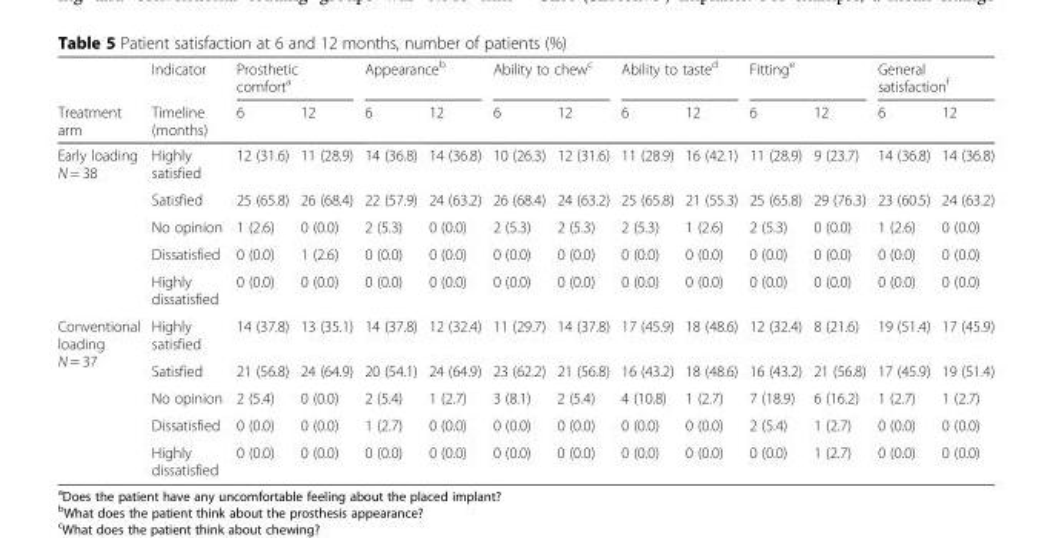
<table><thead><tr><td rowspan="2">Treatment arm</td><td rowspan="2">Indicator Timeline (months)</td><td colspan="2">Prosthetic comfort<sup>a</sup></td><td colspan="2">Appearance<sup>b</sup></td><td colspan="2">Ability to chew<sup>c</sup></td><td colspan="2">Ability to taste<sup>d</sup></td><td colspan="2">Fitting<sup>e</sup></td><td colspan="2">General satisfaction<sup>f</sup></td></tr><tr><td>6</td><td>12</td><td>6</td><td>12</td><td>6</td><td>12</td><td>6</td><td>12</td><td>6</td><td>12</td><td>6</td><td>12</td></tr></thead><tbody><tr><td rowspan="5">Early loading N = 38</td><td>Highly satisfied</td><td>12 (31.6)</td><td>11 (28.9)</td><td>14 (36.8)</td><td>14 (36.8)</td><td>10 (26.3)</td><td>12 (31.6)</td><td>11 (28.9)</td><td>16 (42.1)</td><td>11 (28.9)</td><td>9 (23.7)</td><td>14 (36.8)</td><td>14 (36.8)</td></tr><tr><td>Satisfied</td><td>25 (65.8)</td><td>26 (68.4)</td><td>22 (57.9)</td><td>24 (63.2)</td><td>26 (68.4)</td><td>24 (63.2)</td><td>25 (65.8)</td><td>21 (55.3)</td><td>25 (65.8)</td><td>29 (76.3)</td><td>23 (60.5)</td><td>24 (63.2)</td></tr><tr><td>No opinion</td><td>1 (2.6)</td><td>0 (0.0)</td><td>2 (5.3)</td><td>0 (0.0)</td><td>2 (5.3)</td><td>2 (5.3)</td><td>2 (5.3)</td><td>1 (2.6)</td><td>2 (5.3)</td><td>0 (0.0)</td><td>1 (2.6)</td><td>0 (0.0)</td></tr><tr><td>Dissatisfied</td><td>0 (0.0)</td><td>1 (2.6)</td><td>0 (0.0)</td><td>0 (0.0)</td><td>0 (0.0)</td><td>0 (0.0)</td><td>0 (0.0)</td><td>0 (0.0)</td><td>0 (0.0)</td><td>0 (0.0)</td><td>0 (0.0)</td><td>0 (0.0)</td></tr><tr><td>Highly dissatisfied</td><td>0 (0.0)</td><td>0 (0.0)</td><td>0 (0.0)</td><td>0 (0.0)</td><td>0 (0.0)</td><td>0 (0.0)</td><td>0 (0.0)</td><td>0 (0.0)</td><td>0 (0.0)</td><td>0 (0.0)</td><td>0 (0.0)</td><td>0 (0.0)</td></tr><tr><td rowspan="5">Conventional loading N = 37</td><td>Highly satisfied</td><td>14 (37.8)</td><td>13 (35.1)</td><td>14 (37.8)</td><td>12 (32.4)</td><td>11 (29.7)</td><td>14 (37.8)</td><td>17 (45.9)</td><td>18 (48.6)</td><td>12 (32.4)</td><td>8 (21.6)</td><td>19 (51.4)</td><td>17 (45.9)</td></tr><tr><td>Satisfied</td><td>21 (56.8)</td><td>24 (64.9)</td><td>20 (54.1)</td><td>24 (64.9)</td><td>23 (62.2)</td><td>21 (56.8)</td><td>16 (43.2)</td><td>18 (48.6)</td><td>16 (43.2)</td><td>21 (56.8)</td><td>17 (45.9)</td><td>19 (51.4)</td></tr><tr><td>No opinion</td><td>2 (5.4)</td><td>0 (0.0)</td><td>2 (5.4)</td><td>1 (2.7)</td><td>3 (8.1)</td><td>2 (5.4)</td><td>4 (10.8)</td><td>1 (2.7)</td><td>7 (18.9)</td><td>6 (16.2)</td><td>1 (2.7)</td><td>1 (2.7)</td></tr><tr><td>Dissatisfied</td><td>0 (0.0)</td><td>0 (0.0)</td><td>1 (2.7)</td><td>0 (0.0)</td><td>0 (0.0)</td><td>0 (0.0)</td><td>0 (0.0)</td><td>0 (0.0)</td><td>2 (5.4)</td><td>1 (2.7)</td><td>0 (0.0)</td><td>0 (0.0)</td></tr><tr><td>Highly dissatisfied</td><td>0 (0.0)</td><td>0 (0.0)</td><td>0 (0.0)</td><td>0 (0.0)</td><td>0 (0.0)</td><td>0 (0.0)</td><td>0 (0.0)</td><td>0 (0.0)</td><td>0 (0.0)</td><td>1 (2.7)</td><td>0 (0.0)</td><td>0 (0.0)</td></tr></tbody></table>